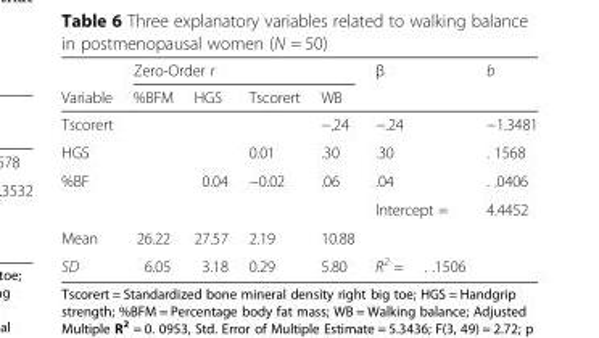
<table><thead><tr><td rowspan="2">Variable</td><td colspan="4">Zero-Order r</td><td rowspan="2">β</td><td rowspan="2"></td><td rowspan="2">b</td></tr><tr><td>%BFM</td><td>HGS</td><td>Tscorert</td><td>WB</td></tr></thead><tbody><tr><td>Tscorert</td><td></td><td></td><td></td><td>−.24</td><td>−.24</td><td></td><td>−1.3481</td></tr><tr><td>HGS</td><td></td><td></td><td>0.01</td><td>.30</td><td>.30</td><td></td><td>. 1568</td></tr><tr><td rowspan="2">%BF</td><td></td><td>0.04</td><td>−0.02</td><td>.06</td><td>.04</td><td></td><td>. .0406</td></tr><tr><td></td><td></td><td></td><td></td><td colspan="2">Intercept =</td><td>4.4452</td></tr><tr><td>Mean</td><td>26.22</td><td>27.57</td><td>2.19</td><td>10.88</td><td></td><td></td><td></td></tr><tr><td>SD</td><td>6.05</td><td>3.18</td><td>0.29</td><td>5.80</td><td>R<sup>2</sup> =</td><td>. .1506</td><td></td></tr></tbody></table>